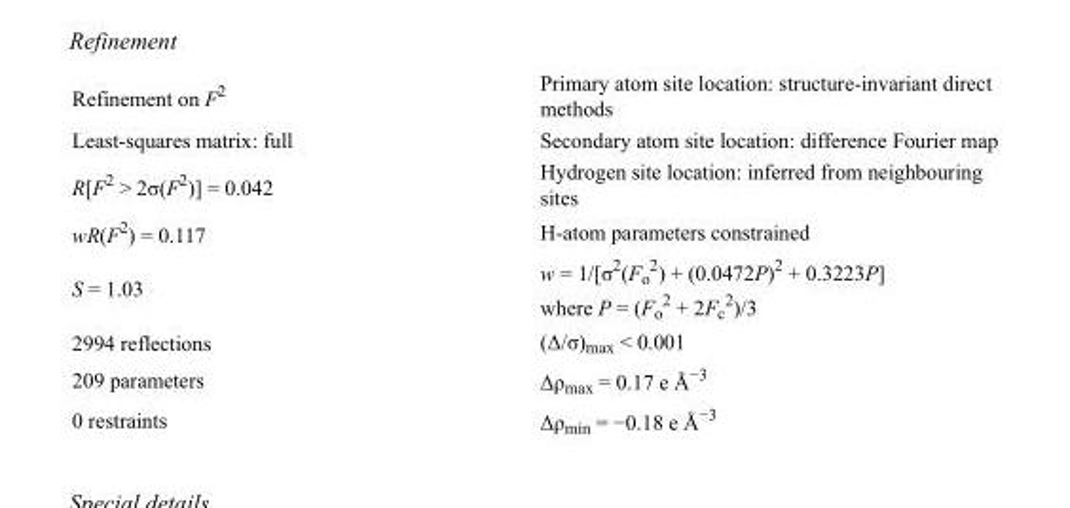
<table><tbody><tr><td>Refinement on F<sup>2</sup></td><td>Primary atom site location: structure-invariant direct methods</td></tr><tr><td>Least-squares matrix: full</td><td>Secondary atom site location: difference Fourier map</td></tr><tr><td>R[F<sup>2</sup> &gt; 2σ(F<sup>2</sup>)] = 0.042</td><td>Hydrogen site location: inferred from neighbouring sites</td></tr><tr><td>wR(F<sup>2</sup>) = 0.117</td><td>H-atom parameters constrained</td></tr><tr><td>S = 1.03</td><td>w = 1/[σ<sup>2</sup>(F<sub>o</sub> <sup>2</sup>) + (0.0472P)<sup>2</sup> + 0.3223P] where P = (F<sub>o</sub> <sup>2</sup> + 2F<sub>c</sub> <sup>2</sup>)/3</td></tr><tr><td>2994 reflections</td><td>(Δ/σ)<sub>max</sub> &lt; 0.001</td></tr><tr><td>209 parameters</td><td>Δρ<sub>max</sub> = 0.17 e Å<sup>−3</sup></td></tr><tr><td>0 restraints</td><td>Δρ<sub>min</sub> = −0.18 e Å<sup>−3</sup></td></tr></tbody></table>